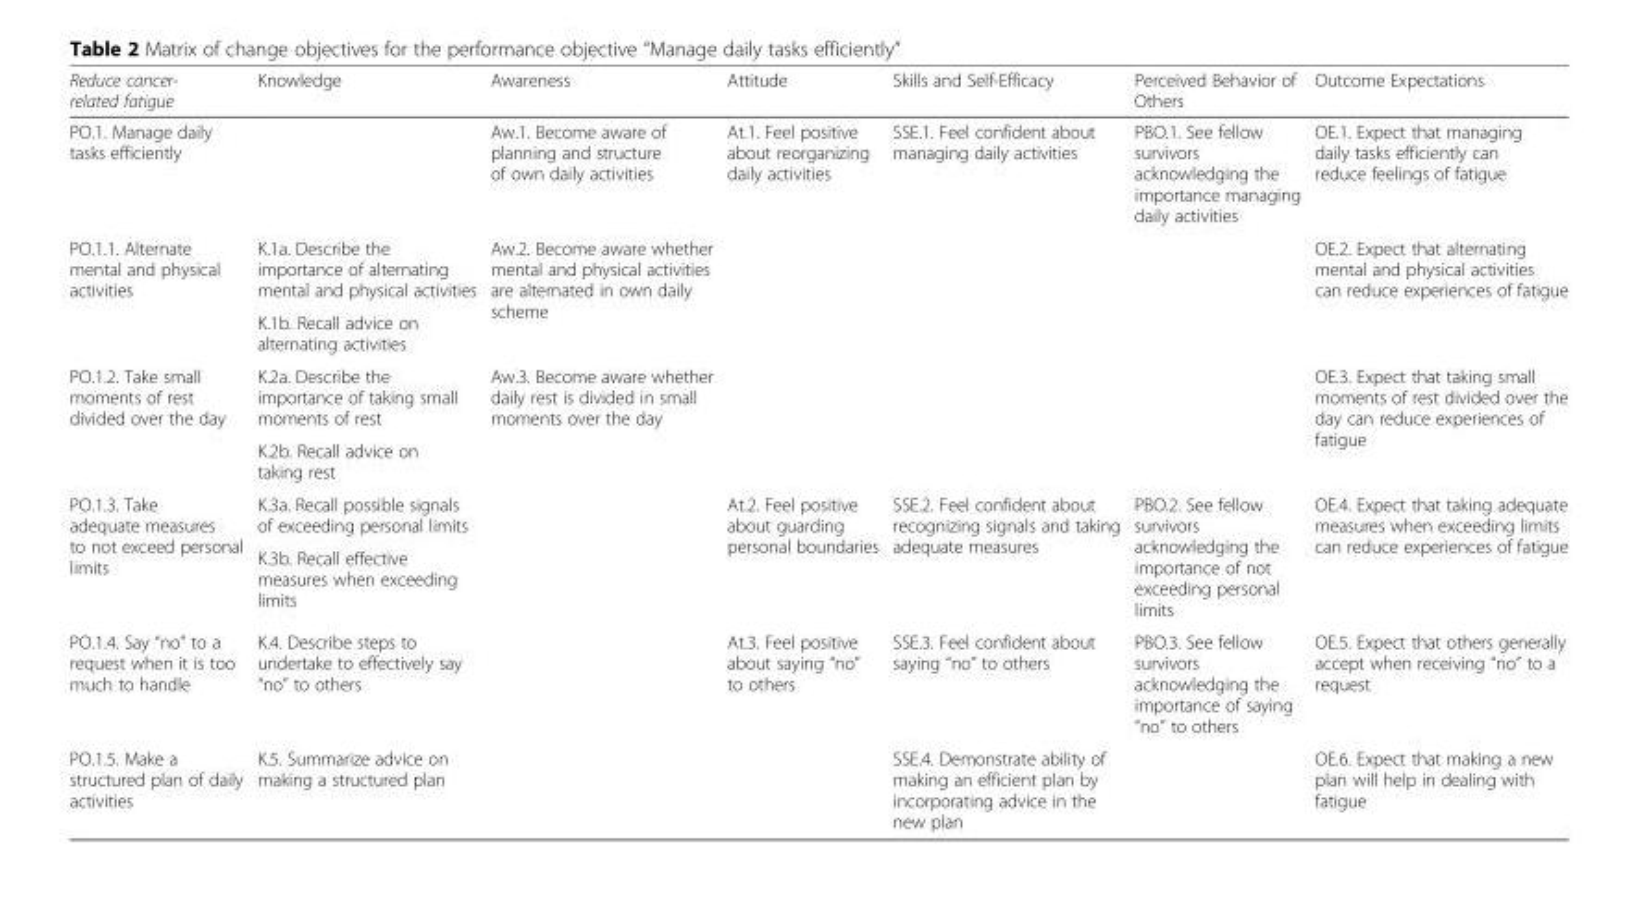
<table><thead><tr><td>Reduce cancer- related fatigue</td><td>Knowledge</td><td>Awareness</td><td>Attitude</td><td>Skills and Self-Efficacy</td><td>Perceived Behavior of Others</td><td>Outcome Expectations</td></tr></thead><tbody><tr><td>PO.1. Manage daily tasks efficiently</td><td></td><td>Aw.1. Become aware of planning and structure of own daily activities</td><td>At.1. Feel positive about reorganizing daily activities</td><td>SSE.1. Feel confident about managing daily activities</td><td>PBO.1. See fellow survivors acknowledging the importance managing daily activities</td><td>OE.1. Expect that managing daily tasks efficiently can reduce feelings of fatigue</td></tr><tr><td rowspan="2">PO.1.1. Alternate mental and physical activities</td><td>K.1a. Describe the importance of alternating mental and physical activities</td><td rowspan="2">Aw.2. Become aware whether mental and physical activities are alternated in own daily scheme</td><td rowspan="2"></td><td rowspan="2"></td><td rowspan="2"></td><td rowspan="2">OE.2. Expect that alternating mental and physical activities can reduce experiences of fatigue</td></tr><tr><td>K.1b. Recall advice on alternating activities</td></tr><tr><td rowspan="2">PO.1.2. Take small moments of rest divided over the day</td><td>K.2a. Describe the importance of taking small moments of rest</td><td rowspan="2">Aw.3. Become aware whether daily rest is divided in small moments over the day</td><td rowspan="2"></td><td rowspan="2"></td><td rowspan="2"></td><td rowspan="2">OE.3. Expect that taking small moments of rest divided over the day can reduce experiences of fatigue</td></tr><tr><td>K.2b. Recall advice on taking rest</td></tr><tr><td rowspan="2">PO.1.3. Take adequate measures to not exceed personal limits</td><td>K.3a. Recall possible signals of exceeding personal limits</td><td rowspan="2"></td><td rowspan="2">At.2. Feel positive about guarding personal boundaries</td><td rowspan="2">SSE.2. Feel confident about recognizing signals and taking adequate measures</td><td rowspan="2">PBO.2. See fellow survivors acknowledging the importance of not exceeding personal limits</td><td rowspan="2">OE.4. Expect that taking adequate measures when exceeding limits can reduce experiences of fatigue</td></tr><tr><td>K.3b. Recall effective measures when exceeding limits</td></tr><tr><td>PO.1.4. Say “no” to a request when it is too much to handle</td><td>K.4. Describe steps to undertake to effectively say “no” to others</td><td></td><td>At.3. Feel positive about saying “no” to others</td><td>SSE.3. Feel confident about saying “no” to others</td><td>PBO.3. See fellow survivors acknowledging the importance of saying “no” to others</td><td>OE.5. Expect that others generally accept when receiving “no” to a request</td></tr><tr><td>PO.1.5. Make a structured plan of daily activities</td><td>K.5. Summarize advice on making a structured plan</td><td></td><td></td><td>SSE.4. Demonstrate ability of making an efficient plan by incorporating advice in the new plan</td><td></td><td>OE.6. Expect that making a new plan will help in dealing with fatigue</td></tr></tbody></table>